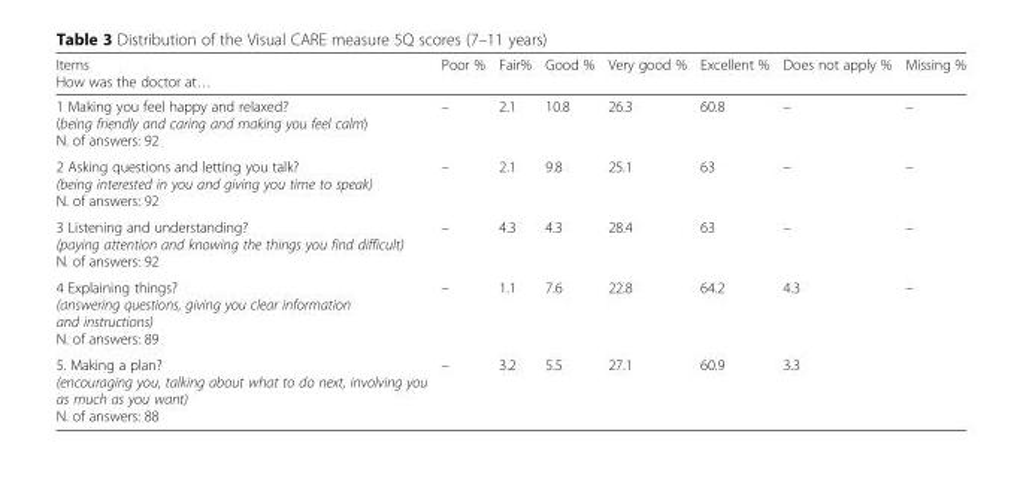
<table><thead><tr><td>Items How was the doctor at…</td><td>Poor %</td><td>Fair%</td><td>Good %</td><td>Very good %</td><td>Excellent %</td><td>Does not apply %</td><td>Missing %</td></tr></thead><tbody><tr><td>1 Making you feel happy and relaxed? (being friendly and caring and making you feel calm) N. of answers: 92</td><td>–</td><td>2.1</td><td>10.8</td><td>26.3</td><td>60.8</td><td>–</td><td>–</td></tr><tr><td>2 Asking questions and letting you talk? (being interested in you and giving you time to speak) N. of answers: 92</td><td>–</td><td>2.1</td><td>9.8</td><td>25.1</td><td>63</td><td>–</td><td>–</td></tr><tr><td>3 Listening and understanding? (paying attention and knowing the things you find difficult) N. of answers: 92</td><td>–</td><td>4.3</td><td>4.3</td><td>28.4</td><td>63</td><td>–</td><td>–</td></tr><tr><td>4 Explaining things? (answering questions, giving you clear information and instructions) N. of answers: 89</td><td>–</td><td>1.1</td><td>7.6</td><td>22.8</td><td>64.2</td><td>4.3</td><td>–</td></tr><tr><td>5. Making a plan? (encouraging you, talking about what to do next, involving you as much as you want) N. of answers: 88</td><td>–</td><td>3.2</td><td>5.5</td><td>27.1</td><td>60.9</td><td>3.3</td><td></td></tr></tbody></table>